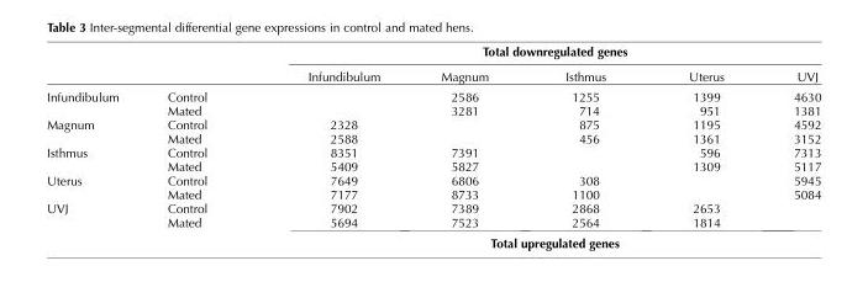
<table><thead><tr><td rowspan="2"></td><td rowspan="2"></td><td colspan="5">Total downregulated genes</td></tr><tr><td>Infundibulum</td><td>Magnum</td><td>Isthmus</td><td>Uterus</td><td>UVJ</td></tr></thead><tbody><tr><td rowspan="2">Infundibulum</td><td>Control</td><td></td><td>2586</td><td>1255</td><td>1399</td><td>4630</td></tr><tr><td>Mated</td><td></td><td>3281</td><td>714</td><td>951</td><td>1381</td></tr><tr><td rowspan="2">Magnum</td><td>Control</td><td>2328</td><td></td><td>875</td><td>1195</td><td>4592</td></tr><tr><td>Mated</td><td>2588</td><td></td><td>456</td><td>1361</td><td>3152</td></tr><tr><td rowspan="2">Isthmus</td><td>Control</td><td>8351</td><td>7391</td><td></td><td>596</td><td>7313</td></tr><tr><td>Mated</td><td>5409</td><td>5827</td><td></td><td>1309</td><td>5117</td></tr><tr><td rowspan="2">Uterus</td><td>Control</td><td>7649</td><td>6806</td><td>308</td><td></td><td>5945</td></tr><tr><td>Mated</td><td>7177</td><td>8733</td><td>1100</td><td></td><td>5084</td></tr><tr><td rowspan="3">UVJ</td><td>Control</td><td>7902</td><td>7389</td><td>2868</td><td>2653</td><td></td></tr><tr><td>Mated</td><td>5694</td><td>7523</td><td>2564</td><td>1814</td><td></td></tr><tr><td></td><td colspan="5">Total upregulated genes</td></tr></tbody></table>